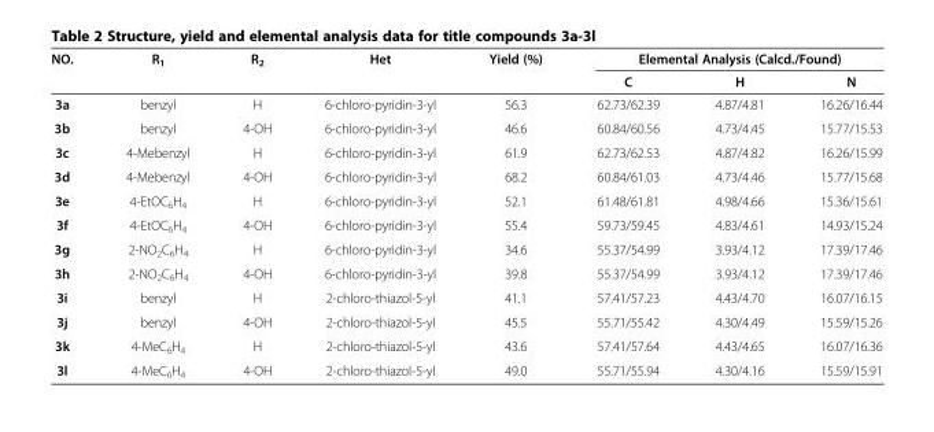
<table><thead><tr><td rowspan="2">NO.</td><td rowspan="2">R<sub>1</sub></td><td rowspan="2">R<sub>2</sub></td><td rowspan="2">Het</td><td rowspan="2">Yield (%)</td><td colspan="3">Elemental Analysis (Calcd./Found)</td></tr><tr><td>C</td><td>H</td><td>N</td></tr></thead><tbody><tr><td>3a</td><td>benzyl</td><td>H</td><td>6-chloro-pyridin-3-yl</td><td>56.3</td><td>62.73/62.39</td><td>4.87/4.81</td><td>16.26/16.44</td></tr><tr><td>3b</td><td>benzyl</td><td>4-OH</td><td>6-chloro-pyridin-3-yl</td><td>46.6</td><td>60.84/60.56</td><td>4.73/4.45</td><td>15.77/15.53</td></tr><tr><td>3c</td><td>4-Mebenzyl</td><td>H</td><td>6-chloro-pyridin-3-yl</td><td>61.9</td><td>62.73/62.53</td><td>4.87/4.82</td><td>16.26/15.99</td></tr><tr><td>3d</td><td>4-Mebenzyl</td><td>4-OH</td><td>6-chloro-pyridin-3-yl</td><td>68.2</td><td>60.84/61.03</td><td>4.73/4.46</td><td>15.77/15.68</td></tr><tr><td>3e</td><td>4-EtOC<sub>6</sub>H<sub>4</sub></td><td>H</td><td>6-chloro-pyridin-3-yl</td><td>52.1</td><td>61.48/61.81</td><td>4.98/4.66</td><td>15.36/15.61</td></tr><tr><td>3f</td><td>4-EtOC<sub>6</sub>H<sub>4</sub></td><td>4-OH</td><td>6-chloro-pyridin-3-yl</td><td>55.4</td><td>59.73/59.45</td><td>4.83/4.61</td><td>14.93/15.24</td></tr><tr><td>3g</td><td>2-NO<sub>2</sub>C<sub>6</sub>H<sub>4</sub></td><td>H</td><td>6-chloro-pyridin-3-yl</td><td>34.6</td><td>55.37/54.99</td><td>3.93/4.12</td><td>17.39/17.46</td></tr><tr><td>3h</td><td>2-NO<sub>2</sub>C<sub>6</sub>H<sub>4</sub></td><td>4-OH</td><td>6-chloro-pyridin-3-yl</td><td>39.8</td><td>55.37/54.99</td><td>3.93/4.12</td><td>17.39/17.46</td></tr><tr><td>3i</td><td>benzyl</td><td>H</td><td>2-chloro-thiazol-5-yl</td><td>41.1</td><td>57.41/57.23</td><td>4.43/4.70</td><td>16.07/16.15</td></tr><tr><td>3j</td><td>benzyl</td><td>4-OH</td><td>2-chloro-thiazol-5-yl</td><td>45.5</td><td>55.71/55.42</td><td>4.30/4.49</td><td>15.59/15.26</td></tr><tr><td>3k</td><td>4-MeC<sub>6</sub>H<sub>4</sub></td><td>H</td><td>2-chloro-thiazol-5-yl</td><td>43.6</td><td>57.41/57.64</td><td>4.43/4.65</td><td>16.07/16.36</td></tr><tr><td>3l</td><td>4-MeC<sub>6</sub>H<sub>4</sub></td><td>4-OH</td><td>2-chloro-thiazol-5-yl</td><td>49.0</td><td>55.71/55.94</td><td>4.30/4.16</td><td>15.59/15.91</td></tr></tbody></table>